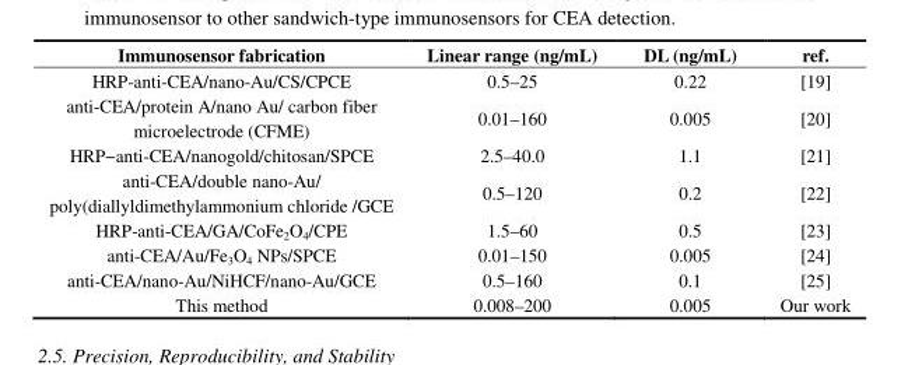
<table><thead><tr><td>Immunosensor fabrication</td><td>Linear range (ng/mL)</td><td>DL (ng/mL)</td><td>ref.</td></tr></thead><tbody><tr><td>HRP-anti-CEA/nano-Au/CS/CPCE</td><td>0.5–25</td><td>0.22</td><td>[19]</td></tr><tr><td>anti-CEA/protein A/nano Au/ carbon fiber microelectrode (CFME)</td><td>0.01–160</td><td>0.005</td><td>[20]</td></tr><tr><td>HRP−anti-CEA/nanogold/chitosan/SPCE</td><td>2.5–40.0</td><td>1.1</td><td>[21]</td></tr><tr><td>anti-CEA/double nano-Au/ poly(diallyldimethylammonium chloride /GCE</td><td>0.5–120</td><td>0.2</td><td>[22]</td></tr><tr><td>HRP-anti-CEA/GA/CoFe<sub>2</sub>O<sub>4</sub>/CPE</td><td>1.5–60</td><td>0.5</td><td>[23]</td></tr><tr><td>anti-CEA/Au/Fe<sub>3</sub>O<sub>4</sub> NPs/SPCE</td><td>0.01–150</td><td>0.005</td><td>[24]</td></tr><tr><td>anti-CEA/nano-Au/NiHCF/nano-Au/GCE</td><td>0.5–160</td><td>0.1</td><td>[25]</td></tr><tr><td>This method</td><td>0.008–200</td><td>0.005</td><td>Our work</td></tr></tbody></table>